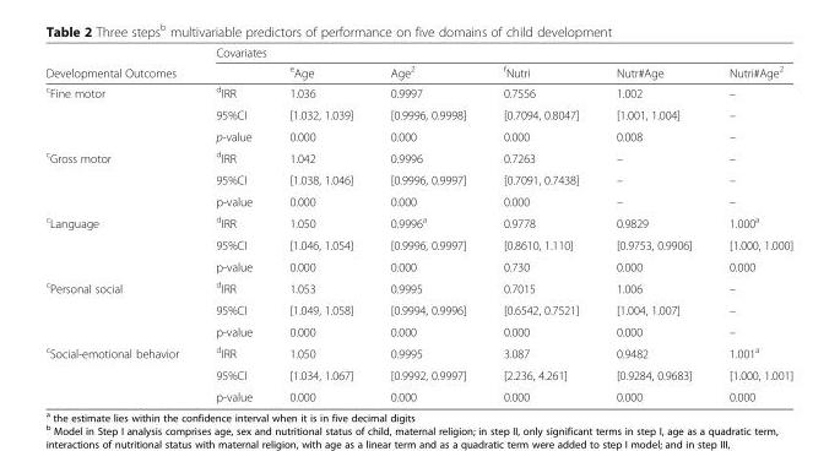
<table><thead><tr><td rowspan="2">Developmental Outcomes</td><td colspan="6">Covariates</td></tr><tr><td></td><td><sup>e</sup>Age</td><td>Age<sup>2</sup></td><td><sup>f</sup>Nutri</td><td>Nutr#Age</td><td>Nutri#Age<sup>2</sup></td></tr></thead><tbody><tr><td rowspan="3"><sup>c</sup>Fine motor</td><td><sup>d</sup>IRR</td><td>1.036</td><td>0.9997</td><td>0.7556</td><td>1.002</td><td>–</td></tr><tr><td>95%CI</td><td>[1.032, 1.039]</td><td>[0.9996, 0.9998]</td><td>[0.7094, 0.8047]</td><td>[1.001, 1.004]</td><td>–</td></tr><tr><td>p-value</td><td>0.000</td><td>0.000</td><td>0.000</td><td>0.008</td><td>–</td></tr><tr><td rowspan="3"><sup>c</sup>Gross motor</td><td><sup>d</sup>IRR</td><td>1.042</td><td>0.9996</td><td>0.7263</td><td>–</td><td>–</td></tr><tr><td>95%CI</td><td>[1.038, 1.046]</td><td>[0.9996, 0.9997]</td><td>[0.7091, 0.7438]</td><td>–</td><td>–</td></tr><tr><td>p-value</td><td>0.000</td><td>0.000</td><td>0.000</td><td>–</td><td>–</td></tr><tr><td rowspan="3"><sup>c</sup>Language</td><td><sup>d</sup>IRR</td><td>1.050</td><td>0.9996<sup>a</sup></td><td>0.9778</td><td>0.9829</td><td>1.000<sup>a</sup></td></tr><tr><td>95%CI</td><td>[1.046, 1.054]</td><td>[0.9996, 0.9997]</td><td>[0.8610, 1.110]</td><td>[0.9753, 0.9906]</td><td>[1.000, 1.000]</td></tr><tr><td>p-value</td><td>0.000</td><td>0.000</td><td>0.730</td><td>0.000</td><td>0.000</td></tr><tr><td rowspan="3"><sup>c</sup>Personal social</td><td><sup>d</sup>IRR</td><td>1.053</td><td>0.9995</td><td>0.7015</td><td>1.006</td><td>–</td></tr><tr><td>95%CI</td><td>[1.049, 1.058]</td><td>[0.9994, 0.9996]</td><td>[0.6542, 0.7521]</td><td>[1.004, 1.007]</td><td>–</td></tr><tr><td>p-value</td><td>0.000</td><td>0.000</td><td>0.000</td><td>0.000</td><td>–</td></tr><tr><td rowspan="3"><sup>c</sup>Social-emotional behavior</td><td><sup>d</sup>IRR</td><td>1.050</td><td>0.9995</td><td>3.087</td><td>0.9482</td><td>1.001<sup>a</sup></td></tr><tr><td>95%CI</td><td>[1.034, 1.067]</td><td>[0.9992, 0.9997]</td><td>[2.236, 4.261]</td><td>[0.9284, 0.9683]</td><td>[1.000, 1.001]</td></tr><tr><td>p-value</td><td>0.000</td><td>0.000</td><td>0.000</td><td>0.000</td><td>0.000</td></tr></tbody></table>